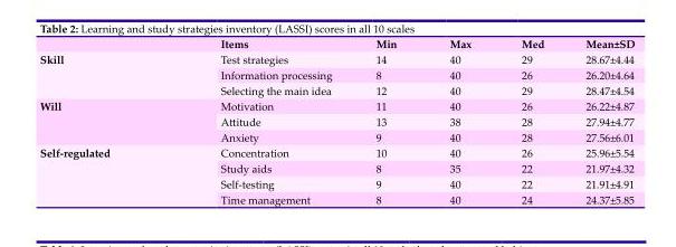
<table><thead><tr><td></td><td>Items</td><td>Min</td><td>Max</td><td>Med</td><td>Mean±SD</td></tr></thead><tbody><tr><td rowspan="3">Skill</td><td>Test strategies</td><td>14</td><td>40</td><td>29</td><td>28.67±4.44</td></tr><tr><td>Information processing</td><td>8</td><td>40</td><td>26</td><td>26.20±4.64</td></tr><tr><td>Selecting the main idea</td><td>12</td><td>40</td><td>29</td><td>28.47±4.54</td></tr><tr><td rowspan="3">Will</td><td>Motivation</td><td>11</td><td>40</td><td>26</td><td>26.22±4.87</td></tr><tr><td>Attitude</td><td>13</td><td>38</td><td>28</td><td>27.94±4.77</td></tr><tr><td>Anxiety</td><td>9</td><td>40</td><td>28</td><td>27.56±6.01</td></tr><tr><td rowspan="4">Self-regulated</td><td>Concentration</td><td>10</td><td>40</td><td>26</td><td>25.96±5.54</td></tr><tr><td>Study aids</td><td>8</td><td>35</td><td>22</td><td>21.97±4.32</td></tr><tr><td>Self-testing</td><td>9</td><td>40</td><td>22</td><td>21.91±4.91</td></tr><tr><td>Time management</td><td>8</td><td>40</td><td>24</td><td>24.37±5.85</td></tr></tbody></table>